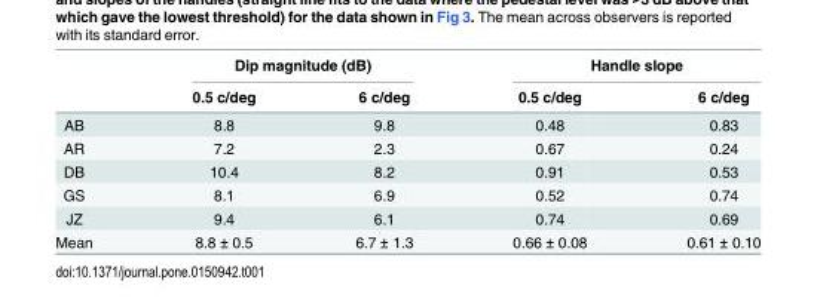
<table><thead><tr><td rowspan="2"></td><td colspan="2">Dip magnitude (dB)</td><td colspan="2">Handle slope</td></tr><tr><td>0.5 c/deg</td><td>6 c/deg</td><td>0.5 c/deg</td><td>6 c/deg</td></tr></thead><tbody><tr><td>AB</td><td>8.8</td><td>9.8</td><td>0.48</td><td>0.83</td></tr><tr><td>AR</td><td>7.2</td><td>2.3</td><td>0.67</td><td>0.24</td></tr><tr><td>DB</td><td>10.4</td><td>8.2</td><td>0.91</td><td>0.53</td></tr><tr><td>GS</td><td>8.1</td><td>6.9</td><td>0.52</td><td>0.74</td></tr><tr><td>JZ</td><td>9.4</td><td>6.1</td><td>0.74</td><td>0.69</td></tr><tr><td>Mean</td><td>8.8 ± 0.5</td><td>6.7 ± 1.3</td><td>0.66 ± 0.08</td><td>0.61 ± 0.10</td></tr></tbody></table>